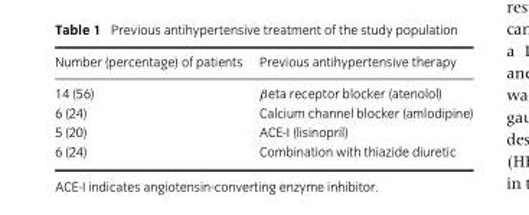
<table><thead><tr><td>Number (percentage) of patients</td><td>Previous antihypertensive therapy</td></tr></thead><tbody><tr><td>14 (56)</td><td>βeta receptor blocker (atenolol)</td></tr><tr><td>6 (24)</td><td>Calcium channel blocker (amlodipine)</td></tr><tr><td>5 (20)</td><td>ACE-I (lisinopril)</td></tr><tr><td>6 (24)</td><td>Combination with thiazide diuretic</td></tr></tbody></table>